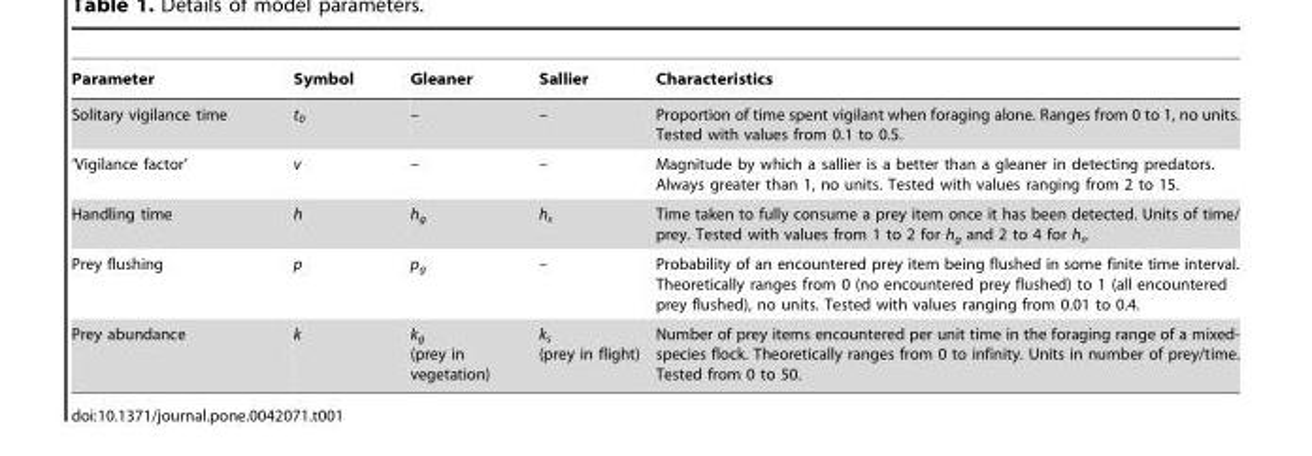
<table><thead><tr><td>Parameter</td><td>Symbol</td><td>Gleaner</td><td>Sallier</td><td>Characteristics</td></tr></thead><tbody><tr><td>Solitary vigilance time</td><td>t<sub>0</sub></td><td>–</td><td>–</td><td>Proportion of time spent vigilant when foraging alone. Ranges from 0 to 1, no units. Tested with values from 0.1 to 0.5.</td></tr><tr><td>‘Vigilance factor’</td><td>v</td><td>–</td><td>–</td><td>Magnitude by which a sallier is a better than a gleaner in detecting predators. Always greater than 1, no units. Tested with values ranging from 2 to 15.</td></tr><tr><td>Handling time</td><td>h</td><td>h<sub>g</sub></td><td>h<sub>s</sub></td><td>Time taken to fully consume a prey item once it has been detected. Units of time/ prey. Tested with values from 1 to 2 for h<sub>g</sub> and 2 to 4 for h<sub>s</sub>.</td></tr><tr><td>Prey flushing</td><td>p</td><td>p<sub>g</sub></td><td>–</td><td>Probability of an encountered prey item being flushed in some finite time interval. Theoretically ranges from 0 (no encountered prey flushed) to 1 (all encountered prey flushed), no units. Tested with values ranging from 0.01 to 0.4.</td></tr><tr><td>Prey abundance</td><td>k</td><td>k<sub>g</sub> (prey in vegetation)</td><td>k<sub>s</sub> (prey in flight)</td><td>Number of prey items encountered per unit time in the foraging range of a mixed- species flock. Theoretically ranges from 0 to infinity. Units in number of prey/time. Tested from 0 to 50.</td></tr></tbody></table>